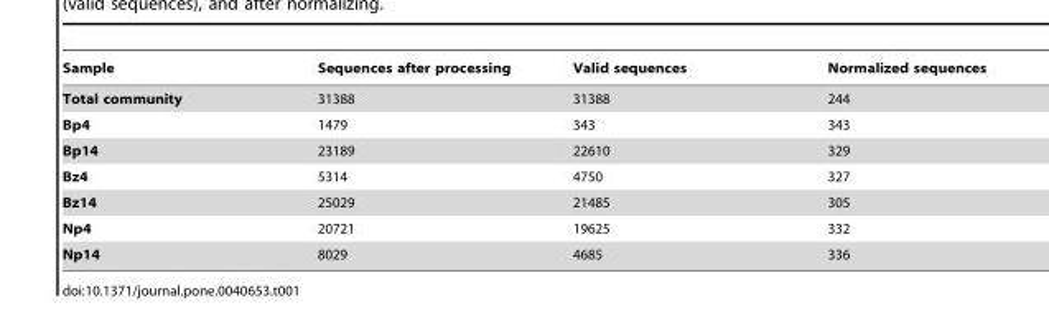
<table><thead><tr><td>Sample</td><td>Sequences after processing</td><td>Valid sequences</td><td>Normalized sequences</td></tr></thead><tbody><tr><td>Total community</td><td>31388</td><td>31388</td><td>244</td></tr><tr><td>Bp4</td><td>1479</td><td>343</td><td>343</td></tr><tr><td>Bp14</td><td>23189</td><td>22610</td><td>329</td></tr><tr><td>Bz4</td><td>5314</td><td>4750</td><td>327</td></tr><tr><td>Bz14</td><td>25029</td><td>21485</td><td>305</td></tr><tr><td>Np4</td><td>20721</td><td>19625</td><td>332</td></tr><tr><td>Np14</td><td>8029</td><td>4685</td><td>336</td></tr></tbody></table>